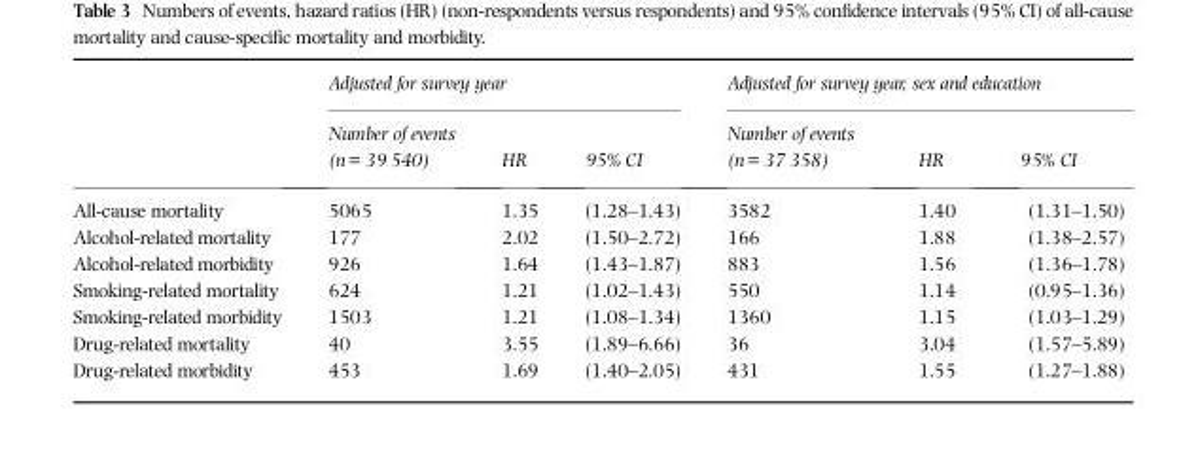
<table><thead><tr><td rowspan="2"></td><td colspan="3">Adjusted for survey year</td><td colspan="3">Adjusted for survey year, sex and education</td></tr><tr><td>Number of events (n = 39 540)</td><td>HR</td><td>95% CI</td><td>Number of events (n = 37 358)</td><td>HR</td><td>95% CI</td></tr></thead><tbody><tr><td>All-cause mortality</td><td>5065</td><td>1.35</td><td>(1.28–1.43)</td><td>3582</td><td>1.40</td><td>(1.31–1.50)</td></tr><tr><td>Alcohol-related mortality</td><td>177</td><td>2.02</td><td>(1.50–2.72)</td><td>166</td><td>1.88</td><td>(1.38–2.57)</td></tr><tr><td>Alcohol-related morbidity</td><td>926</td><td>1.64</td><td>(1.43–1.87)</td><td>883</td><td>1.56</td><td>(1.36–1.78)</td></tr><tr><td>Smoking-related mortality</td><td>624</td><td>1.21</td><td>(1.02–1.43)</td><td>550</td><td>1.14</td><td>(0.95–1.36)</td></tr><tr><td>Smoking-related morbidity</td><td>1503</td><td>1.21</td><td>(1.08–1.34)</td><td>1360</td><td>1.15</td><td>(1.03–1.29)</td></tr><tr><td>Drug-related mortality</td><td>40</td><td>3.55</td><td>(1.89–6.66)</td><td>36</td><td>3.04</td><td>(1.57–5.89)</td></tr><tr><td>Drug-related morbidity</td><td>453</td><td>1.69</td><td>(1.40–2.05)</td><td>431</td><td>1.55</td><td>(1.27–1.88)</td></tr></tbody></table>